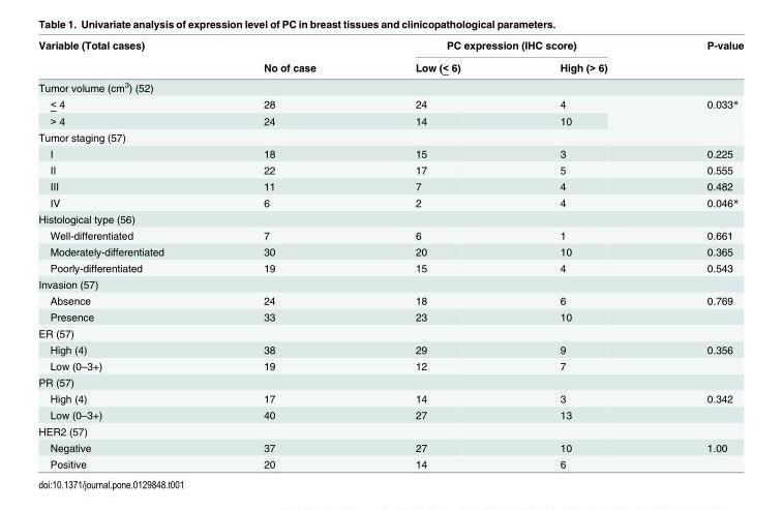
<table><thead><tr><td rowspan="2">Variable (Total cases)</td><td rowspan="2">No of case</td><td colspan="2">PC expression (IHC score)</td><td rowspan="2">P-value</td></tr><tr><td>Low (&lt; 6)</td><td>High (&gt; 6)</td></tr></thead><tbody><tr><td colspan="5">Tumor volume (cm<sup>3</sup>) (52)</td></tr><tr><td>&lt; 4</td><td>28</td><td>24</td><td>4</td><td rowspan="2">0.033*</td></tr><tr><td>&gt; 4</td><td>24</td><td>14</td><td>10</td></tr><tr><td colspan="5">Tumor staging (57)</td></tr><tr><td>I</td><td>18</td><td>15</td><td>3</td><td>0.225</td></tr><tr><td>II</td><td>22</td><td>17</td><td>5</td><td>0.555</td></tr><tr><td>III</td><td>11</td><td>7</td><td>4</td><td>0.482</td></tr><tr><td>IV</td><td>6</td><td>2</td><td>4</td><td>0.046*</td></tr><tr><td colspan="5">Histological type (56)</td></tr><tr><td>Well-differentiated</td><td>7</td><td>6</td><td>1</td><td>0.661</td></tr><tr><td>Moderately-differentiated</td><td>30</td><td>20</td><td>10</td><td>0.365</td></tr><tr><td>Poorly-differentiated</td><td>19</td><td>15</td><td>4</td><td>0.543</td></tr><tr><td colspan="5">Invasion (57)</td></tr><tr><td>Absence</td><td>24</td><td>18</td><td>6</td><td>0.769</td></tr><tr><td>Presence</td><td>33</td><td>23</td><td>10</td><td></td></tr><tr><td colspan="5">ER (57)</td></tr><tr><td>High (4)</td><td>38</td><td>29</td><td>9</td><td>0.356</td></tr><tr><td>Low (0–3+)</td><td>19</td><td>12</td><td>7</td><td></td></tr><tr><td colspan="5">PR (57)</td></tr><tr><td>High (4)</td><td>17</td><td>14</td><td>3</td><td>0.342</td></tr><tr><td>Low (0–3+)</td><td>40</td><td>27</td><td>13</td><td></td></tr><tr><td colspan="5">HER2 (57)</td></tr><tr><td>Negative</td><td>37</td><td>27</td><td>10</td><td>1.00</td></tr><tr><td>Positive</td><td>20</td><td>14</td><td>6</td><td></td></tr></tbody></table>